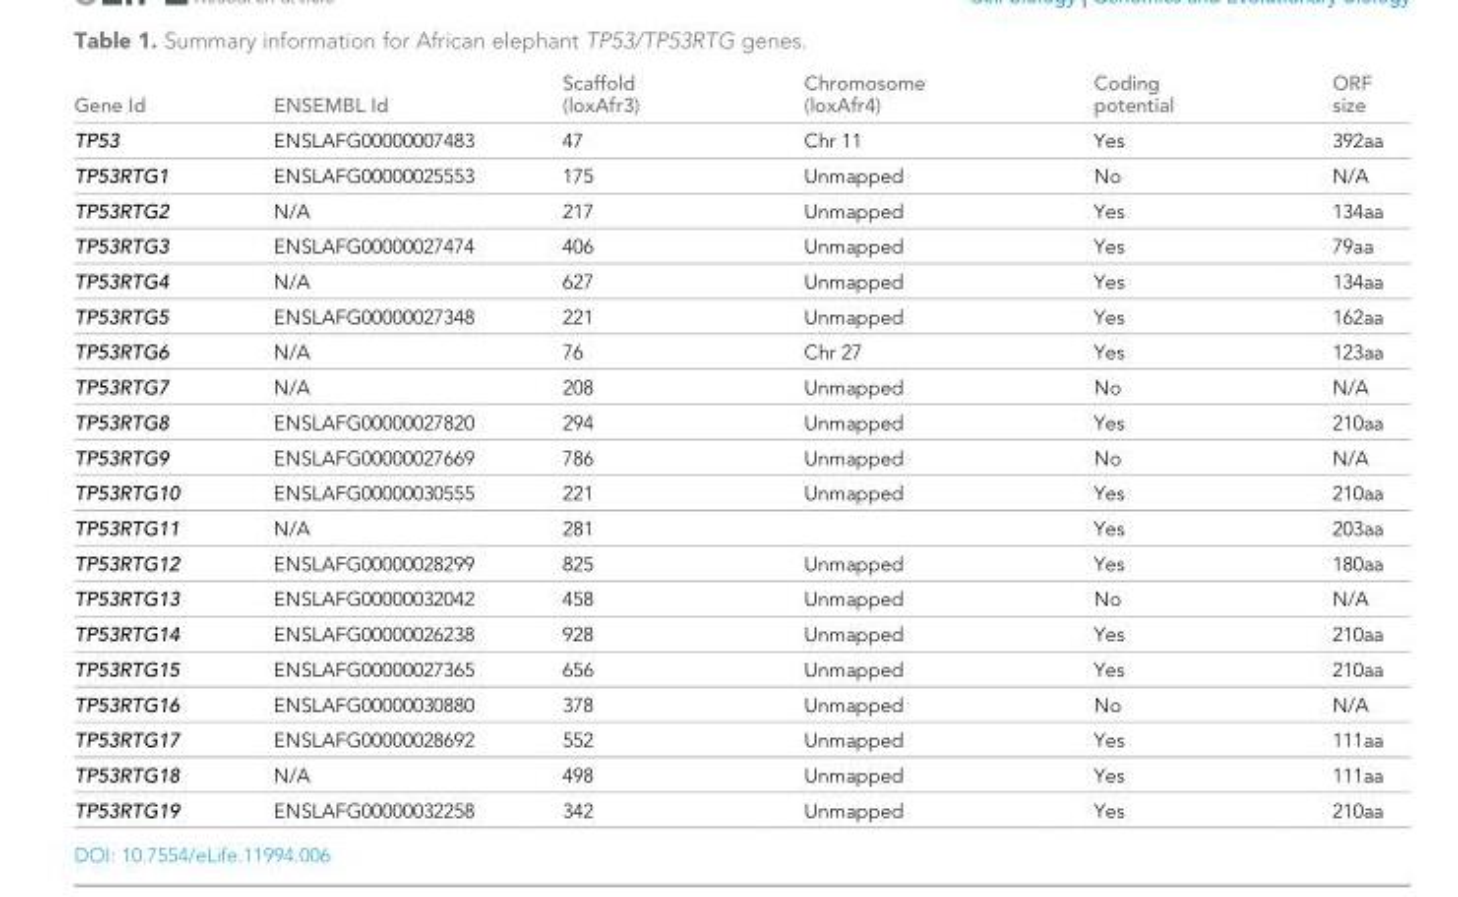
<table><thead><tr><td>Gene Id</td><td>ENSEMBL Id</td><td>Scaffold (loxAfr3)</td><td>Chromosome (loxAfr4)</td><td>Coding potential</td><td>ORF size</td></tr></thead><tbody><tr><td>TP53</td><td>ENSLAFG00000007483</td><td>47</td><td>Chr 11</td><td>Yes</td><td>392aa</td></tr><tr><td>TP53RTG1</td><td>ENSLAFG00000025553</td><td>175</td><td>Unmapped</td><td>No</td><td>N/A</td></tr><tr><td>TP53RTG2</td><td>N/A</td><td>217</td><td>Unmapped</td><td>Yes</td><td>134aa</td></tr><tr><td>TP53RTG3</td><td>ENSLAFG00000027474</td><td>406</td><td>Unmapped</td><td>Yes</td><td>79aa</td></tr><tr><td>TP53RTG4</td><td>N/A</td><td>627</td><td>Unmapped</td><td>Yes</td><td>134aa</td></tr><tr><td>TP53RTG5</td><td>ENSLAFG00000027348</td><td>221</td><td>Unmapped</td><td>Yes</td><td>162aa</td></tr><tr><td>TP53RTG6</td><td>N/A</td><td>76</td><td>Chr 27</td><td>Yes</td><td>123aa</td></tr><tr><td>TP53RTG7</td><td>N/A</td><td>208</td><td>Unmapped</td><td>No</td><td>N/A</td></tr><tr><td>TP53RTG8</td><td>ENSLAFG00000027820</td><td>294</td><td>Unmapped</td><td>Yes</td><td>210aa</td></tr><tr><td>TP53RTG9</td><td>ENSLAFG00000027669</td><td>786</td><td>Unmapped</td><td>No</td><td>N/A</td></tr><tr><td>TP53RTG10</td><td>ENSLAFG00000030555</td><td>221</td><td>Unmapped</td><td>Yes</td><td>210aa</td></tr><tr><td>TP53RTG11</td><td>N/A</td><td>281</td><td></td><td>Yes</td><td>203aa</td></tr><tr><td>TP53RTG12</td><td>ENSLAFG00000028299</td><td>825</td><td>Unmapped</td><td>Yes</td><td>180aa</td></tr><tr><td>TP53RTG13</td><td>ENSLAFG00000032042</td><td>458</td><td>Unmapped</td><td>No</td><td>N/A</td></tr><tr><td>TP53RTG14</td><td>ENSLAFG00000026238</td><td>928</td><td>Unmapped</td><td>Yes</td><td>210aa</td></tr><tr><td>TP53RTG15</td><td>ENSLAFG00000027365</td><td>656</td><td>Unmapped</td><td>Yes</td><td>210aa</td></tr><tr><td>TP53RTG16</td><td>ENSLAFG00000030880</td><td>378</td><td>Unmapped</td><td>No</td><td>N/A</td></tr><tr><td>TP53RTG17</td><td>ENSLAFG00000028692</td><td>552</td><td>Unmapped</td><td>Yes</td><td>111aa</td></tr><tr><td>TP53RTG18</td><td>N/A</td><td>498</td><td>Unmapped</td><td>Yes</td><td>111aa</td></tr><tr><td>TP53RTG19</td><td>ENSLAFG00000032258</td><td>342</td><td>Unmapped</td><td>Yes</td><td>210aa</td></tr></tbody></table>